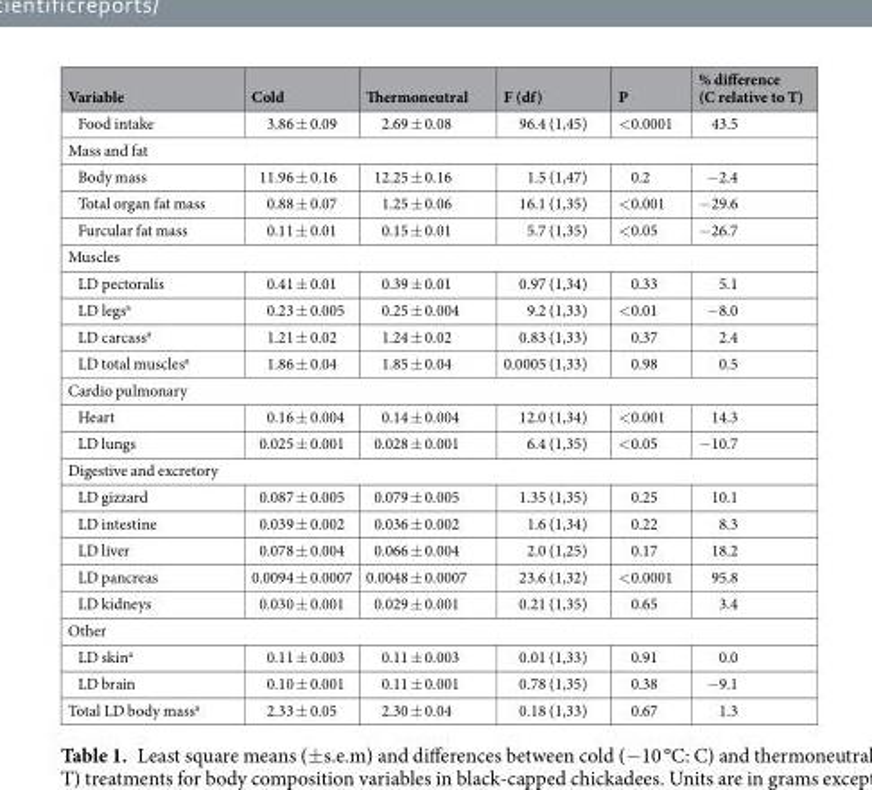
<table><thead><tr><td>Variable</td><td>Cold</td><td>Thermoneutral</td><td>F (df)</td><td>P</td><td>% difference (C relative to T)</td></tr></thead><tbody><tr><td>Food intake</td><td>3.86 ± 0.09</td><td>2.69 ± 0.08</td><td>96.4 (1,45)</td><td>&lt;0.0001</td><td>43.5</td></tr><tr><td colspan="6">Mass and fat</td></tr><tr><td>Body mass</td><td>11.96 ± 0.16</td><td>12.25 ± 0.16</td><td>1.5 (1,47)</td><td>0.2</td><td>−2.4</td></tr><tr><td>Total organ fat mass</td><td>0.88 ± 0.07</td><td>1.25 ± 0.06</td><td>16.1 (1,35)</td><td>&lt;0.001</td><td>−29.6</td></tr><tr><td>Furcular fat mass</td><td>0.11 ± 0.01</td><td>0.15 ± 0.01</td><td>5.7 (1,35)</td><td>&lt;0.05</td><td>−26.7</td></tr><tr><td colspan="6">Muscles</td></tr><tr><td>LD pectoralis</td><td>0.41 ± 0.01</td><td>0.39 ± 0.01</td><td>0.97 (1,34)</td><td>0.33</td><td>5.1</td></tr><tr><td>LD legs<sup>a</sup></td><td>0.23 ± 0.005</td><td>0.25 ± 0.004</td><td>9.2 (1,33)</td><td>&lt;0.01</td><td>−8.0</td></tr><tr><td>LD carcass<sup>a</sup></td><td>1.21 ± 0.02</td><td>1.24 ± 0.02</td><td>0.83 (1,33)</td><td>0.37</td><td>2.4</td></tr><tr><td>LD total muscles<sup>a</sup></td><td>1.86 ± 0.04</td><td>1.85 ± 0.04</td><td>0.0005 (1,33)</td><td>0.98</td><td>0.5</td></tr><tr><td colspan="6">Cardio pulmonary</td></tr><tr><td>Heart</td><td>0.16 ± 0.004</td><td>0.14 ± 0.004</td><td>12.0 (1,34)</td><td>&lt;0.001</td><td>14.3</td></tr><tr><td>LD lungs</td><td>0.025 ± 0.001</td><td>0.028 ± 0.001</td><td>6.4 (1,35)</td><td>&lt;0.05</td><td>−10.7</td></tr><tr><td colspan="6">Digestive and excretory</td></tr><tr><td>LD gizzard</td><td>0.087 ± 0.005</td><td>0.079 ± 0.005</td><td>1.35 (1,35)</td><td>0.25</td><td>10.1</td></tr><tr><td>LD intestine</td><td>0.039 ± 0.002</td><td>0.036 ± 0.002</td><td>1.6 (1,34)</td><td>0.22</td><td>8.3</td></tr><tr><td>LD liver</td><td>0.078 ± 0.004</td><td>0.066 ± 0.004</td><td>2.0 (1,25)</td><td>0.17</td><td>18.2</td></tr><tr><td>LD pancreas</td><td>0.0094 ± 0.0007</td><td>0.0048 ± 0.0007</td><td>23.6 (1,32)</td><td>&lt;0.0001</td><td>95.8</td></tr><tr><td>LD kidneys</td><td>0.030 ± 0.001</td><td>0.029 ± 0.001</td><td>0.21 (1,35)</td><td>0.65</td><td>3.4</td></tr><tr><td colspan="6">Other</td></tr><tr><td>LD skin<sup>a</sup></td><td>0.11 ± 0.003</td><td>0.11 ± 0.003</td><td>0.01 (1,33)</td><td>0.91</td><td>0.0</td></tr><tr><td>LD brain</td><td>0.10 ± 0.001</td><td>0.11 ± 0.001</td><td>0.78 (1,35)</td><td>0.38</td><td>−9.1</td></tr><tr><td>Total LD body mass<sup>a</sup></td><td>2.33 ± 0.05</td><td>2.30 ± 0.04</td><td>0.18 (1,33)</td><td>0.67</td><td>1.3</td></tr></tbody></table>